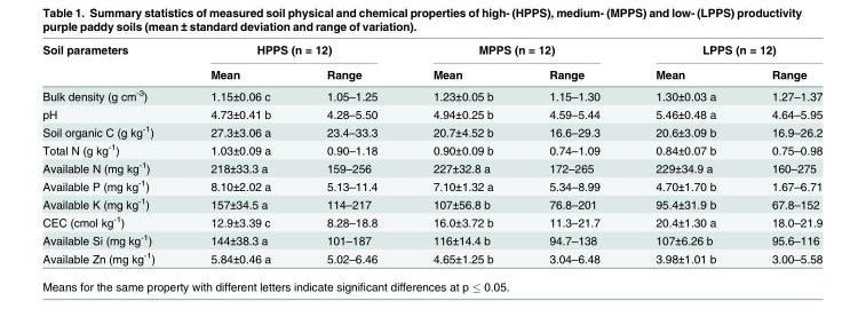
<table><thead><tr><td rowspan="2">Soil parameters</td><td colspan="2">HPPS (n = 12)</td><td colspan="2">MPPS (n = 12)</td><td colspan="2">LPPS (n = 12)</td></tr><tr><td>Mean</td><td>Range</td><td>Mean</td><td>Range</td><td>Mean</td><td>Range</td></tr></thead><tbody><tr><td>Bulk density (g cm<sup>-3</sup>)</td><td>1.15±0.06 c</td><td>1.05–1.25</td><td>1.23±0.05 b</td><td>1.15–1.30</td><td>1.30±0.03 a</td><td>1.27–1.37</td></tr><tr><td>pH</td><td>4.73±0.41 b</td><td>4.28–5.50</td><td>4.94±0.25 b</td><td>4.59–5.44</td><td>5.46±0.48 a</td><td>4.64–5.95</td></tr><tr><td>Soil organic C (g kg<sup>-1</sup>)</td><td>27.3±3.06 a</td><td>23.4–33.3</td><td>20.7±4.52 b</td><td>16.6–29.3</td><td>20.6±3.09 b</td><td>16.9–26.2</td></tr><tr><td>Total N (g kg<sup>-1</sup>)</td><td>1.03±0.09 a</td><td>0.90–1.18</td><td>0.90±0.09 b</td><td>0.74–1.09</td><td>0.84±0.07 b</td><td>0.75–0.98</td></tr><tr><td>Available N (mg kg<sup>-1</sup>)</td><td>218±33.3 a</td><td>159–256</td><td>227±32.8 a</td><td>172–265</td><td>229±34.9 a</td><td>160–275</td></tr><tr><td>Available P (mg kg<sup>-1</sup>)</td><td>8.10±2.02 a</td><td>5.13–11.4</td><td>7.10±1.32 a</td><td>5.34–8.99</td><td>4.70±1.70 b</td><td>1.67–6.71</td></tr><tr><td>Available K (mg kg<sup>-1</sup>)</td><td>157±34.5 a</td><td>114–217</td><td>107±56.8 b</td><td>76.8–201</td><td>95.4±31.9 b</td><td>67.8–152</td></tr><tr><td>CEC (cmol kg<sup>-1</sup>)</td><td>12.9±3.39 c</td><td>8.28–18.8</td><td>16.0±3.72 b</td><td>11.3–21.7</td><td>20.4±1.30 a</td><td>18.0–21.9</td></tr><tr><td>Available Si (mg kg<sup>-1</sup>)</td><td>144±38.3 a</td><td>101–187</td><td>116±14.4 b</td><td>94.7–138</td><td>107±6.26 b</td><td>95.6–116</td></tr><tr><td>Available Zn (mg kg<sup>-1</sup>)</td><td>5.84±0.46 a</td><td>5.02–6.46</td><td>4.65±1.25 b</td><td>3.04–6.48</td><td>3.98±1.01 b</td><td>3.00–5.58</td></tr></tbody></table>